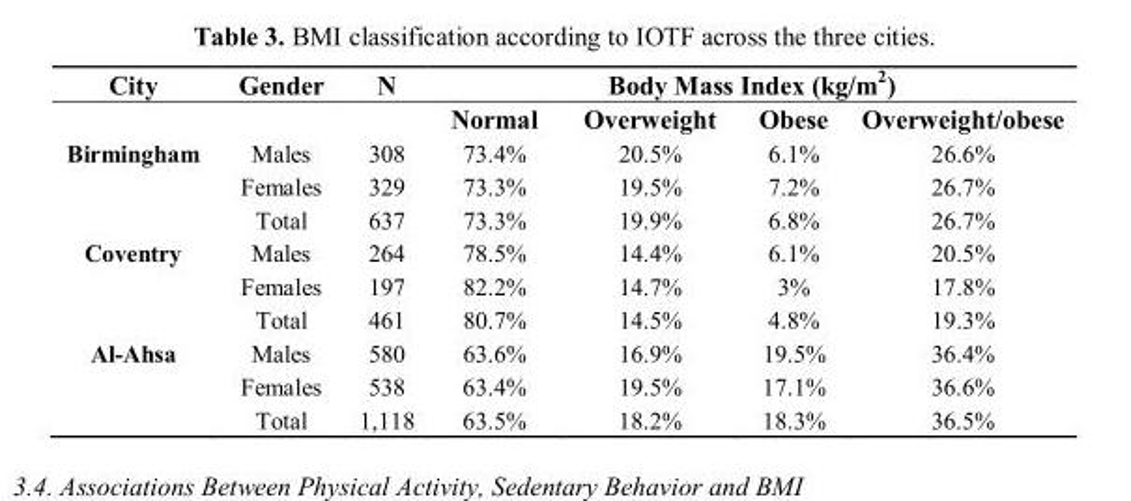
<table><thead><tr><td rowspan="2">City</td><td rowspan="2">Gender</td><td rowspan="2">N</td><td colspan="4">Body Mass Index (kg/m<sup>2</sup>)</td></tr><tr><td>Normal</td><td>Overweight</td><td>Obese</td><td>Overweight/obese</td></tr></thead><tbody><tr><td rowspan="3">Birmingham</td><td>Males</td><td>308</td><td>73.4%</td><td>20.5%</td><td>6.1%</td><td>26.6%</td></tr><tr><td>Females</td><td>329</td><td>73.3%</td><td>19.5%</td><td>7.2%</td><td>26.7%</td></tr><tr><td>Total</td><td>637</td><td>73.3%</td><td>19.9%</td><td>6.8%</td><td>26.7%</td></tr><tr><td rowspan="3">Coventry</td><td>Males</td><td>264</td><td>78.5%</td><td>14.4%</td><td>6.1%</td><td>20.5%</td></tr><tr><td>Females</td><td>197</td><td>82.2%</td><td>14.7%</td><td>3%</td><td>17.8%</td></tr><tr><td>Total</td><td>461</td><td>80.7%</td><td>14.5%</td><td>4.8%</td><td>19.3%</td></tr><tr><td rowspan="3">Al-Ahsa</td><td>Males</td><td>580</td><td>63.6%</td><td>16.9%</td><td>19.5%</td><td>36.4%</td></tr><tr><td>Females</td><td>538</td><td>63.4%</td><td>19.5%</td><td>17.1%</td><td>36.6%</td></tr><tr><td>Total</td><td>1,118</td><td>63.5%</td><td>18.2%</td><td>18.3%</td><td>36.5%</td></tr></tbody></table>